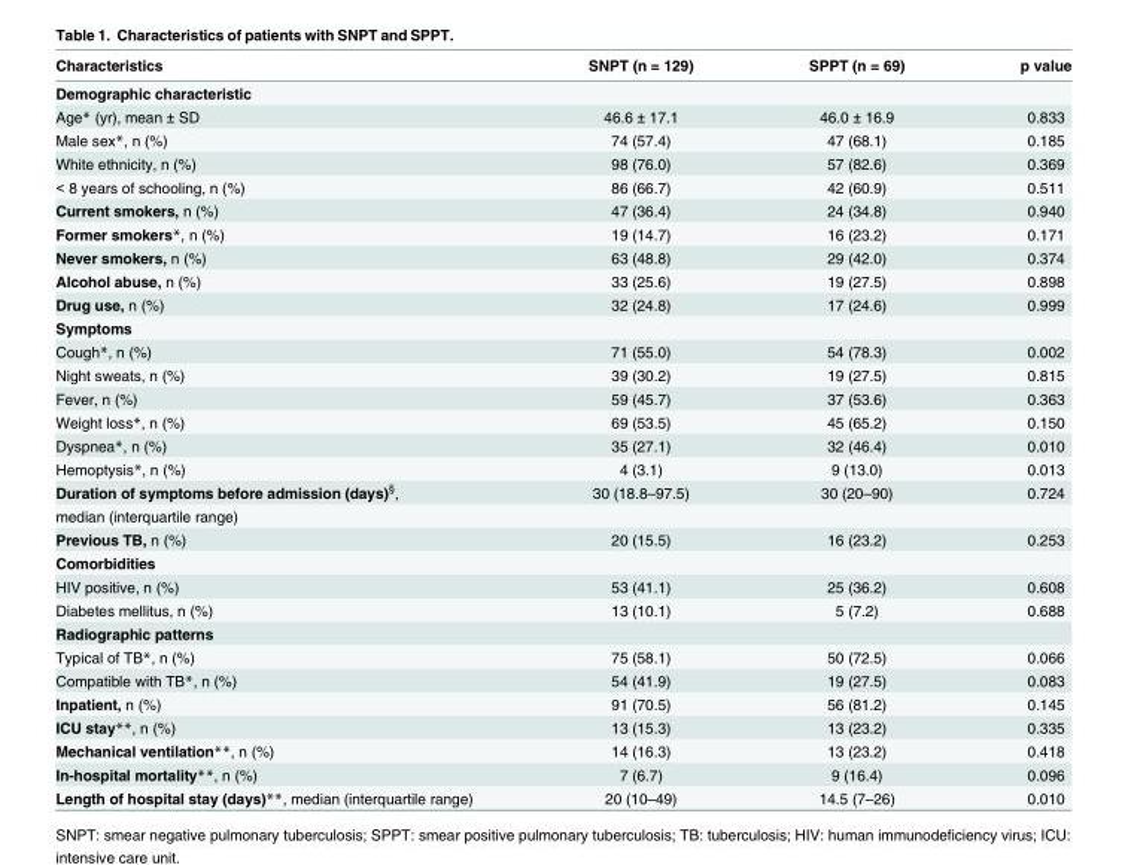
<table><thead><tr><td>Characteristics</td><td>SNPT (n = 129)</td><td>SPPT (n = 69)</td><td>p value</td></tr></thead><tbody><tr><td colspan="4">Demographic characteristic</td></tr><tr><td>Age* (yr), mean ± SD</td><td>46.6 ± 17.1</td><td>46.0 ± 16.9</td><td>0.833</td></tr><tr><td>Male sex*, n (%)</td><td>74 (57.4)</td><td>47 (68.1)</td><td>0.185</td></tr><tr><td>White ethnicity, n (%)</td><td>98 (76.0)</td><td>57 (82.6)</td><td>0.369</td></tr><tr><td>&lt; 8 years of schooling, n (%)</td><td>86 (66.7)</td><td>42 (60.9)</td><td>0.511</td></tr><tr><td>Current smokers, n (%)</td><td>47 (36.4)</td><td>24 (34.8)</td><td>0.940</td></tr><tr><td>Former smokers*, n (%)</td><td>19 (14.7)</td><td>16 (23.2)</td><td>0.171</td></tr><tr><td>Never smokers, n (%)</td><td>63 (48.8)</td><td>29 (42.0)</td><td>0.374</td></tr><tr><td>Alcohol abuse, n (%)</td><td>33 (25.6)</td><td>19 (27.5)</td><td>0.898</td></tr><tr><td>Drug use, n (%)</td><td>32 (24.8)</td><td>17 (24.6)</td><td>0.999</td></tr><tr><td colspan="4">Symptoms</td></tr><tr><td>Cough*, n (%)</td><td>71 (55.0)</td><td>54 (78.3)</td><td>0.002</td></tr><tr><td>Night sweats, n (%)</td><td>39 (30.2)</td><td>19 (27.5)</td><td>0.815</td></tr><tr><td>Fever, n (%)</td><td>59 (45.7)</td><td>37 (53.6)</td><td>0.363</td></tr><tr><td>Weight loss*, n (%)</td><td>69 (53.5)</td><td>45 (65.2)</td><td>0.150</td></tr><tr><td>Dyspnea*, n (%)</td><td>35 (27.1)</td><td>32 (46.4)</td><td>0.010</td></tr><tr><td>Hemoptysis*, n (%)</td><td>4 (3.1)</td><td>9 (13.0)</td><td>0.013</td></tr><tr><td>Duration of symptoms before admission (days)<sup>§</sup>,</td><td>30 (18.8–97.5)</td><td>30 (20–90)</td><td>0.724</td></tr><tr><td colspan="4">median (interquartile range)</td></tr><tr><td>Previous TB, n (%)</td><td>20 (15.5)</td><td>16 (23.2)</td><td>0.253</td></tr><tr><td colspan="4">Comorbidities</td></tr><tr><td>HIV positive, n (%)</td><td>53 (41.1)</td><td>25 (36.2)</td><td>0.608</td></tr><tr><td>Diabetes mellitus, n (%)</td><td>13 (10.1)</td><td>5 (7.2)</td><td>0.688</td></tr><tr><td colspan="4">Radiographic patterns</td></tr><tr><td>Typical of TB*, n (%)</td><td>75 (58.1)</td><td>50 (72.5)</td><td>0.066</td></tr><tr><td>Compatible with TB*, n (%)</td><td>54 (41.9)</td><td>19 (27.5)</td><td>0.083</td></tr><tr><td>Inpatient, n (%)</td><td>91 (70.5)</td><td>56 (81.2)</td><td>0.145</td></tr><tr><td>ICU stay**, n (%)</td><td>13 (15.3)</td><td>13 (23.2)</td><td>0.335</td></tr><tr><td>Mechanical ventilation**, n (%)</td><td>14 (16.3)</td><td>13 (23.2)</td><td>0.418</td></tr><tr><td>In-hospital mortality**, n (%)</td><td>7 (6.7)</td><td>9 (16.4)</td><td>0.096</td></tr><tr><td>Length of hospital stay (days)**, median (interquartile range)</td><td>20 (10–49)</td><td>14.5 (7–26)</td><td>0.010</td></tr></tbody></table>